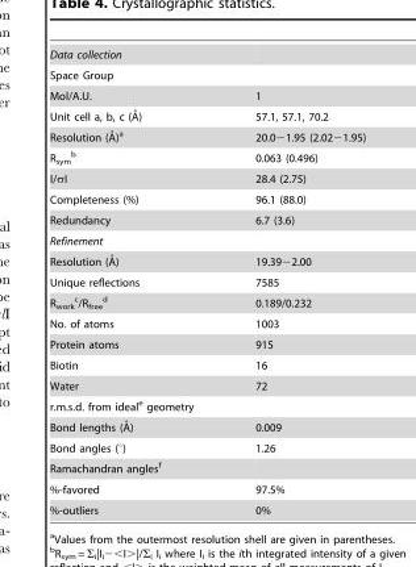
<table><tbody><tr><td colspan="2">Data collection</td></tr><tr><td colspan="2">Space Group</td></tr><tr><td>Mol/A.U.</td><td>1</td></tr><tr><td>Unit cell a, b, c (A˚)</td><td>57.1, 57.1, 70.2</td></tr><tr><td>Resolution (A˚)a</td><td>20.0−1.95 (2.02−1.95)</td></tr><tr><td>R<sub>sym</sub> b</td><td>0.063 (0.496)</td></tr><tr><td>I/σI</td><td>28.4 (2.75)</td></tr><tr><td>Completeness (%)</td><td>96.1 (88.0)</td></tr><tr><td>Redundancy</td><td>6.7 (3.6)</td></tr><tr><td colspan="2">Refinement</td></tr><tr><td>Resolution (A˚)</td><td>19.39−2.00</td></tr><tr><td>Unique reflections</td><td>7585</td></tr><tr><td>R<sub>work</sub> c/R<sub>free</sub> d</td><td>0.189/0.232</td></tr><tr><td>No. of atoms</td><td>1003</td></tr><tr><td>Protein atoms</td><td>915</td></tr><tr><td>Biotin</td><td>16</td></tr><tr><td>Water</td><td>72</td></tr><tr><td colspan="2">r.m.s.d. from ideal<sup>e</sup> geometry</td></tr><tr><td>Bond lengths (A˚)</td><td>0.009</td></tr><tr><td>Bond angles (°)</td><td>1.26</td></tr><tr><td colspan="2">Ramachandran angles<sup>f</sup></td></tr><tr><td>%-favored</td><td>97.5%</td></tr><tr><td>%-outliers</td><td>0%</td></tr></tbody></table>